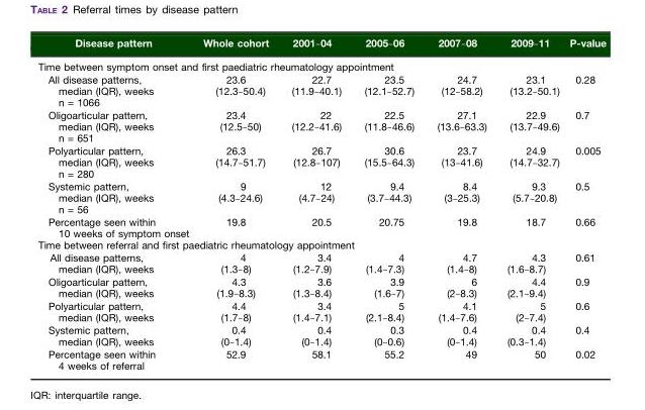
<table><thead><tr><td>Disease pattern</td><td>Whole cohort</td><td>2001–04</td><td>2005–06</td><td>2007–08</td><td>2009–11</td><td>P-value</td></tr></thead><tbody><tr><td colspan="7">Time between symptom onset and first paediatric rheumatology appointment</td></tr><tr><td>All disease patterns, median (IQR), weeks</td><td rowspan="2">23.6 (12.3–50.4)</td><td rowspan="2">22.7 (11.9–40.1)</td><td rowspan="2">23.5 (12.1–52.7)</td><td rowspan="2">24.7 (12–58.2)</td><td rowspan="2">23.1 (13.2–50.1)</td><td rowspan="2">0.28</td></tr><tr><td>n = 1066</td></tr><tr><td>Oligoarticular pattern, median (IQR), weeks</td><td rowspan="2">23.4 (12.5–50)</td><td rowspan="2">22 (12.2–41.6)</td><td rowspan="2">22.5 (11.8–46.6)</td><td rowspan="2">27.1 (13.6–63.3)</td><td rowspan="2">22.9 (13.7–49.6)</td><td rowspan="2">0.7</td></tr><tr><td>n = 651</td></tr><tr><td>Polyarticular pattern, median (IQR), weeks</td><td rowspan="2">26.3 (14.7–51.7)</td><td rowspan="2">26.7 (12.8–107)</td><td rowspan="2">30.6 (15.5–64.3)</td><td rowspan="2">23.7 (13–41.6)</td><td rowspan="2">24.9 (14.7–32.7)</td><td rowspan="2">0.005</td></tr><tr><td>n = 280</td></tr><tr><td>Systemic pattern, median (IQR), weeks</td><td rowspan="2">9 (4.3–24.6)</td><td rowspan="2">12 (4.7–24)</td><td rowspan="2">9.4 (3.7–44.3)</td><td rowspan="2">8.4 (3–25.3)</td><td rowspan="2">9.3 (5.7–20.8)</td><td rowspan="2">0.5</td></tr><tr><td>n = 56</td></tr><tr><td>Percentage seen within 10 weeks of symptom onset</td><td>19.8</td><td>20.5</td><td>20.75</td><td>19.8</td><td>18.7</td><td>0.66</td></tr><tr><td colspan="7">Time between referral and first paediatric rheumatology appointment</td></tr><tr><td rowspan="2">All disease patterns, median (IQR), weeks</td><td>4</td><td>3.4</td><td>4</td><td>4.7</td><td>4.3</td><td rowspan="2">0.61</td></tr><tr><td>(1.3–8)</td><td>(1.2–7.9)</td><td>(1.4–7.3)</td><td>(1.4–8)</td><td>(1.6–8.7)</td></tr><tr><td rowspan="2">Oligoarticular pattern, median (IQR), weeks</td><td>4.3</td><td>3.6</td><td>3.9</td><td>6</td><td>4.4</td><td rowspan="2">0.9</td></tr><tr><td>(1.9–8.3)</td><td>(1.3–8.4)</td><td>(1.6–7)</td><td>(2–8.3)</td><td>(2.1–9.4)</td></tr><tr><td rowspan="2">Polyarticular pattern, median (IQR), weeks</td><td>4.4</td><td>3.4</td><td>5</td><td>4.1</td><td>5</td><td rowspan="2">0.6</td></tr><tr><td>(1.7–8)</td><td>(1.4–7.1)</td><td>(2.1–8.4)</td><td>(1.4–7.6)</td><td>(2–7.4)</td></tr><tr><td rowspan="2">Systemic pattern, median (IQR), weeks</td><td>0.4</td><td>0.4</td><td>0.3</td><td>0.4</td><td>0.4</td><td rowspan="2">0.4</td></tr><tr><td>(0–1.4)</td><td>(0–1.4)</td><td>(0–0.6)</td><td>(0–1.4)</td><td>(0.3–1.4)</td></tr><tr><td>Percentage seen within 4 weeks of referral</td><td>52.9</td><td>58.1</td><td>55.2</td><td>49</td><td>50</td><td>0.02</td></tr></tbody></table>